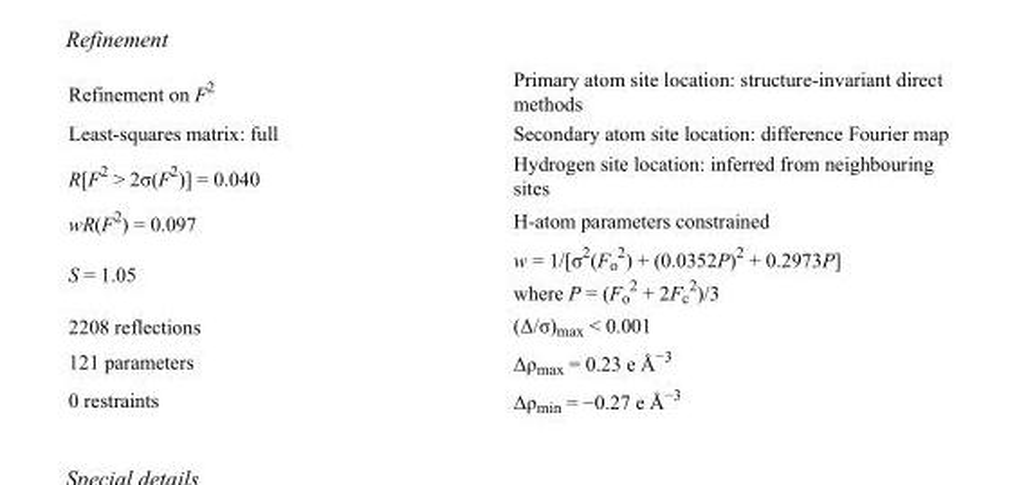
<table><tbody><tr><td>Refinement on F<sup>2</sup></td><td>Primary atom site location: structure-invariant direct methods</td></tr><tr><td>Least-squares matrix: full</td><td>Secondary atom site location: difference Fourier map</td></tr><tr><td>R[F<sup>2</sup> &gt; 2σ(F<sup>2</sup>)] = 0.040</td><td>Hydrogen site location: inferred from neighbouring sites</td></tr><tr><td>wR(F<sup>2</sup>) = 0.097</td><td>H-atom parameters constrained</td></tr><tr><td>S = 1.05</td><td>w = 1/[σ<sup>2</sup>(F<sub>o</sub> <sup>2</sup>) + (0.0352P)<sup>2</sup> + 0.2973P] where P = (F<sub>o</sub> <sup>2</sup> + 2F<sub>c</sub> <sup>2</sup>)/3</td></tr><tr><td>2208 reflections</td><td>(Δ/σ)<sub>max</sub> &lt; 0.001</td></tr><tr><td>121 parameters</td><td>Δρ<sub>max</sub> = 0.23 e Å<sup>−3</sup></td></tr><tr><td>0 restraints</td><td>Δρ<sub>min</sub> = −0.27 e Å<sup>−3</sup></td></tr></tbody></table>